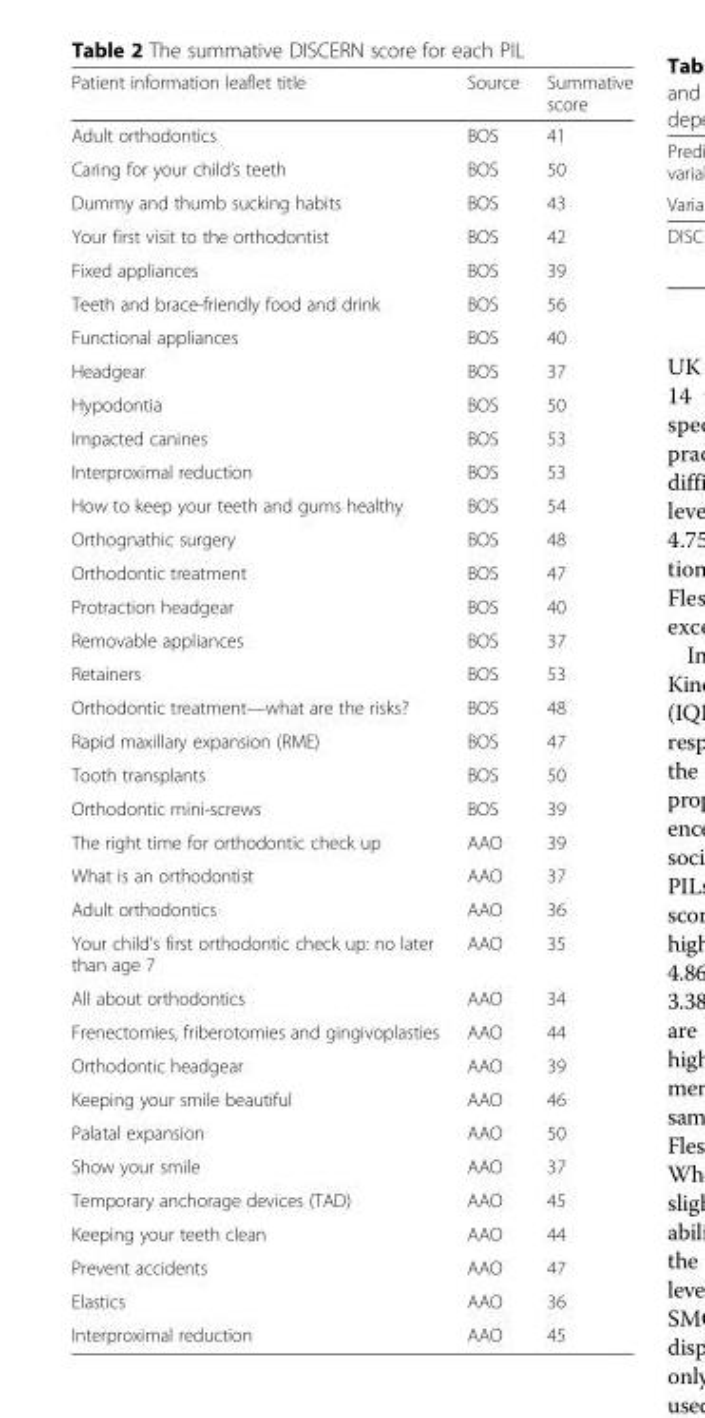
<table><thead><tr><td>Patient information leaflet title</td><td>Source</td><td>Summative score</td></tr></thead><tbody><tr><td>Adult orthodontics</td><td>BOS</td><td>41</td></tr><tr><td>Caring for your child’s teeth</td><td>BOS</td><td>50</td></tr><tr><td>Dummy and thumb sucking habits</td><td>BOS</td><td>43</td></tr><tr><td>Your first visit to the orthodontist</td><td>BOS</td><td>42</td></tr><tr><td>Fixed appliances</td><td>BOS</td><td>39</td></tr><tr><td>Teeth and brace-friendly food and drink</td><td>BOS</td><td>56</td></tr><tr><td>Functional appliances</td><td>BOS</td><td>40</td></tr><tr><td>Headgear</td><td>BOS</td><td>37</td></tr><tr><td>Hypodontia</td><td>BOS</td><td>50</td></tr><tr><td>Impacted canines</td><td>BOS</td><td>53</td></tr><tr><td>Interproximal reduction</td><td>BOS</td><td>53</td></tr><tr><td>How to keep your teeth and gums healthy</td><td>BOS</td><td>54</td></tr><tr><td>Orthognathic surgery</td><td>BOS</td><td>48</td></tr><tr><td>Orthodontic treatment</td><td>BOS</td><td>47</td></tr><tr><td>Protraction headgear</td><td>BOS</td><td>40</td></tr><tr><td>Removable appliances</td><td>BOS</td><td>37</td></tr><tr><td>Retainers</td><td>BOS</td><td>53</td></tr><tr><td>Orthodontic treatment—what are the risks?</td><td>BOS</td><td>48</td></tr><tr><td>Rapid maxillary expansion (RME)</td><td>BOS</td><td>47</td></tr><tr><td>Tooth transplants</td><td>BOS</td><td>50</td></tr><tr><td>Orthodontic mini-screws</td><td>BOS</td><td>39</td></tr><tr><td>The right time for orthodontic check up</td><td>AAO</td><td>39</td></tr><tr><td>What is an orthodontist</td><td>AAO</td><td>37</td></tr><tr><td>Adult orthodontics</td><td>AAO</td><td>36</td></tr><tr><td>Your child’s first orthodontic check up: no later than age 7</td><td>AAO</td><td>35</td></tr><tr><td>All about orthodontics</td><td>AAO</td><td>34</td></tr><tr><td>Frenectomies, friberotomies and gingivoplasties</td><td>AAO</td><td>44</td></tr><tr><td>Orthodontic headgear</td><td>AAO</td><td>39</td></tr><tr><td>Keeping your smile beautiful</td><td>AAO</td><td>46</td></tr><tr><td>Palatal expansion</td><td>AAO</td><td>50</td></tr><tr><td>Show your smile</td><td>AAO</td><td>37</td></tr><tr><td>Temporary anchorage devices (TAD)</td><td>AAO</td><td>45</td></tr><tr><td>Keeping your teeth clean</td><td>AAO</td><td>44</td></tr><tr><td>Prevent accidents</td><td>AAO</td><td>47</td></tr><tr><td>Elastics</td><td>AAO</td><td>36</td></tr><tr><td>Interproximal reduction</td><td>AAO</td><td>45</td></tr></tbody></table>